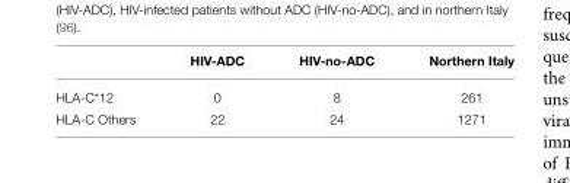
<table><thead><tr><td></td><td>HIV-ADC</td><td>HIV-no-ADC</td><td>Northern Italy</td></tr></thead><tbody><tr><td>HLA-C*12</td><td>0</td><td>8</td><td>261</td></tr><tr><td>HLA-C Others</td><td>22</td><td>24</td><td>1271</td></tr></tbody></table>